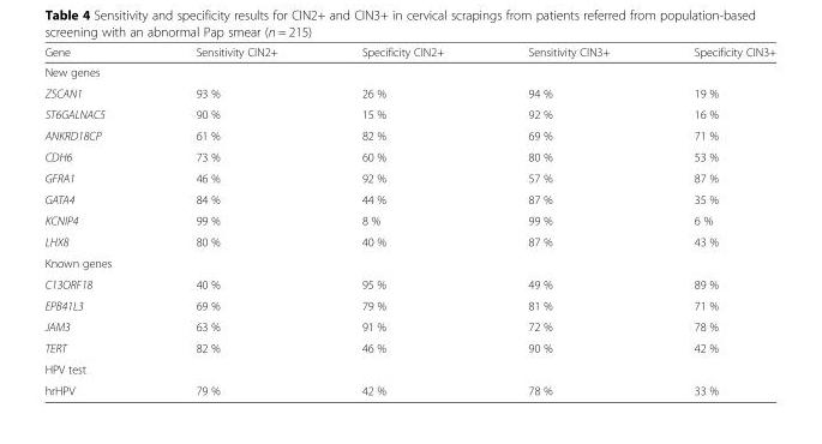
<table><thead><tr><td>Gene</td><td>Sensitivity CIN2+</td><td>Specificity CIN2+</td><td>Sensitivity CIN3+</td><td>Specificity CIN3+</td></tr></thead><tbody><tr><td colspan="5">New genes</td></tr><tr><td>ZSCAN1</td><td>93 %</td><td>26 %</td><td>94 %</td><td>19 %</td></tr><tr><td>ST6GALNAC5</td><td>90 %</td><td>15 %</td><td>92 %</td><td>16 %</td></tr><tr><td>ANKRD18CP</td><td>61 %</td><td>82 %</td><td>69 %</td><td>71 %</td></tr><tr><td>CDH6</td><td>73 %</td><td>60 %</td><td>80 %</td><td>53 %</td></tr><tr><td>GFRA1</td><td>46 %</td><td>92 %</td><td>57 %</td><td>87 %</td></tr><tr><td>GATA4</td><td>84 %</td><td>44 %</td><td>87 %</td><td>35 %</td></tr><tr><td>KCNIP4</td><td>99 %</td><td>8 %</td><td>99 %</td><td>6 %</td></tr><tr><td>LHX8</td><td>80 %</td><td>40 %</td><td>87 %</td><td>43 %</td></tr><tr><td colspan="5">Known genes</td></tr><tr><td>C13ORF18</td><td>40 %</td><td>95 %</td><td>49 %</td><td>89 %</td></tr><tr><td>EPB41L3</td><td>69 %</td><td>79 %</td><td>81 %</td><td>71 %</td></tr><tr><td>JAM3</td><td>63 %</td><td>91 %</td><td>72 %</td><td>78 %</td></tr><tr><td>TERT</td><td>82 %</td><td>46 %</td><td>90 %</td><td>42 %</td></tr><tr><td colspan="5">HPV test</td></tr><tr><td>hrHPV</td><td>79 %</td><td>42 %</td><td>78 %</td><td>33 %</td></tr></tbody></table>